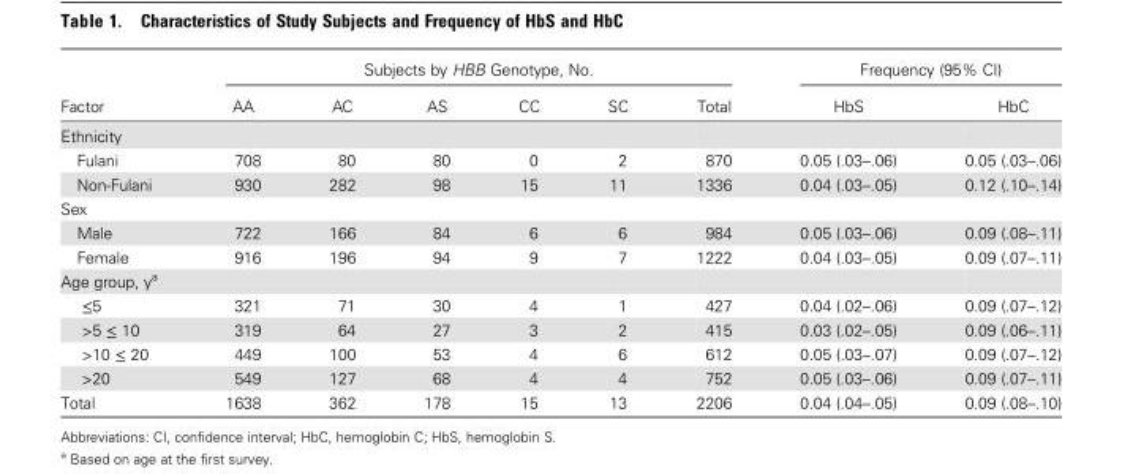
<table><thead><tr><td rowspan="2">Factor</td><td colspan="6">Subjects by HBB Genotype, No.</td><td colspan="2">Frequency (95% CI)</td></tr><tr><td>AA</td><td>AC</td><td>AS</td><td>CC</td><td>SC</td><td>Total</td><td>HbS</td><td>HbC</td></tr></thead><tbody><tr><td colspan="9">Ethnicity</td></tr><tr><td>Fulani</td><td>708</td><td>80</td><td>80</td><td>0</td><td>2</td><td>870</td><td>0.05 (.03–.06)</td><td>0.05 (.03–.06)</td></tr><tr><td>Non-Fulani</td><td>930</td><td>282</td><td>98</td><td>15</td><td>11</td><td>1336</td><td>0.04 (.03–.05)</td><td>0.12 (.10–.14)</td></tr><tr><td colspan="9">Sex</td></tr><tr><td>Male</td><td>722</td><td>166</td><td>84</td><td>6</td><td>6</td><td>984</td><td>0.05 (.03–.06)</td><td>0.09 (.08–.11)</td></tr><tr><td>Female</td><td>916</td><td>196</td><td>94</td><td>9</td><td>7</td><td>1222</td><td>0.04 (.03–.05)</td><td>0.09 (.07–.11)</td></tr><tr><td colspan="9">Age group, y<sup>a</sup></td></tr><tr><td>≤5</td><td>321</td><td>71</td><td>30</td><td>4</td><td>1</td><td>427</td><td>0.04 (.02–.06)</td><td>0.09 (.07–.12)</td></tr><tr><td>&gt;5 ≤ 10</td><td>319</td><td>64</td><td>27</td><td>3</td><td>2</td><td>415</td><td>0.03 (.02–.05)</td><td>0.09 (.06–.11)</td></tr><tr><td>&gt;10 ≤ 20</td><td>449</td><td>100</td><td>53</td><td>4</td><td>6</td><td>612</td><td>0.05 (.03–.07)</td><td>0.09 (.07–.12)</td></tr><tr><td>&gt;20</td><td>549</td><td>127</td><td>68</td><td>4</td><td>4</td><td>752</td><td>0.05 (.03–.06)</td><td>0.09 (.07–.11)</td></tr><tr><td>Total</td><td>1638</td><td>362</td><td>178</td><td>15</td><td>13</td><td>2206</td><td>0.04 (.04–.05)</td><td>0.09 (.08–.10)</td></tr></tbody></table>